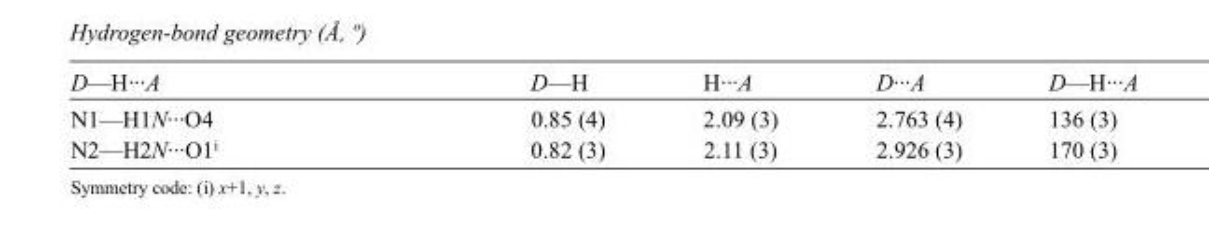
<table><tbody><tr><td>D—H···A</td><td>D—H</td><td>H···A</td><td>D···A</td><td>D—H···A</td></tr><tr><td>N1—H1N···O4</td><td>0.85 (4)</td><td>2.09 (3)</td><td>2.763 (4)</td><td>136 (3)</td></tr><tr><td>N2—H2N···O1<sup>i</sup></td><td>0.82 (3)</td><td>2.11 (3)</td><td>2.926 (3)</td><td>170 (3)</td></tr></tbody></table>